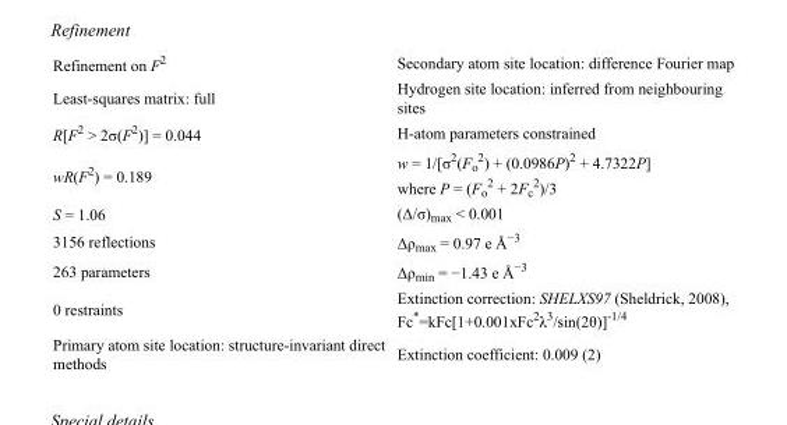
<table><tbody><tr><td>Refinement on F<sup>2</sup></td><td>Secondary atom site location: difference Fourier map</td></tr><tr><td>Least-squares matrix: full</td><td>Hydrogen site location: inferred from neighbouring sites</td></tr><tr><td>R[F<sup>2</sup> &gt; 2σ(F<sup>2</sup>)] = 0.044</td><td>H-atom parameters constrained</td></tr><tr><td>wR(F<sup>2</sup>) = 0.189</td><td>w = 1/[σ<sup>2</sup>(F<sub>o</sub> <sup>2</sup>) + (0.0986P)<sup>2</sup> + 4.7322P] where P = (F<sub>o</sub> <sup>2</sup> + 2F<sub>c</sub> <sup>2</sup>)/3</td></tr><tr><td>S = 1.06</td><td>(Δ/σ)<sub>max</sub> &lt; 0.001</td></tr><tr><td>3156 reflections</td><td>Δρ<sub>max</sub> = 0.97 e Å<sup>−3</sup></td></tr><tr><td>263 parameters</td><td>Δρ<sub>min</sub> = −1.43 e Å<sup>−3</sup></td></tr><tr><td>0 restraints</td><td>Extinction correction: SHELXS97 (Sheldrick, 2008), Fc*=kFc[1+0.001xFc<sup>2</sup>λ<sup>3</sup>/sin(2θ)]<sup>-1/4</sup></td></tr><tr><td>Primary atom site location: structure-invariant direct methods</td><td>Extinction coefficient: 0.009 (2)</td></tr></tbody></table>